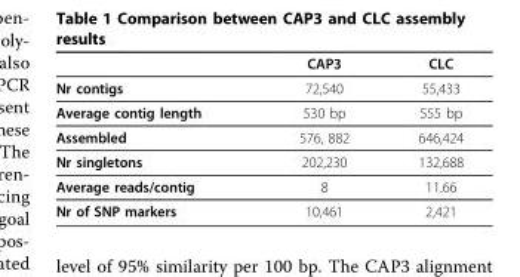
<table><thead><tr><td></td><td>CAP3</td><td>CLC</td></tr></thead><tbody><tr><td>Nr contigs</td><td>72,540</td><td>55,433</td></tr><tr><td>Average contig length</td><td>530 bp</td><td>555 bp</td></tr><tr><td>Assembled</td><td>576, 882</td><td>646,424</td></tr><tr><td>Nr singletons</td><td>202,230</td><td>132,688</td></tr><tr><td>Average reads/contig</td><td>8</td><td>11.66</td></tr><tr><td>Nr of SNP markers</td><td>10,461</td><td>2,421</td></tr></tbody></table>